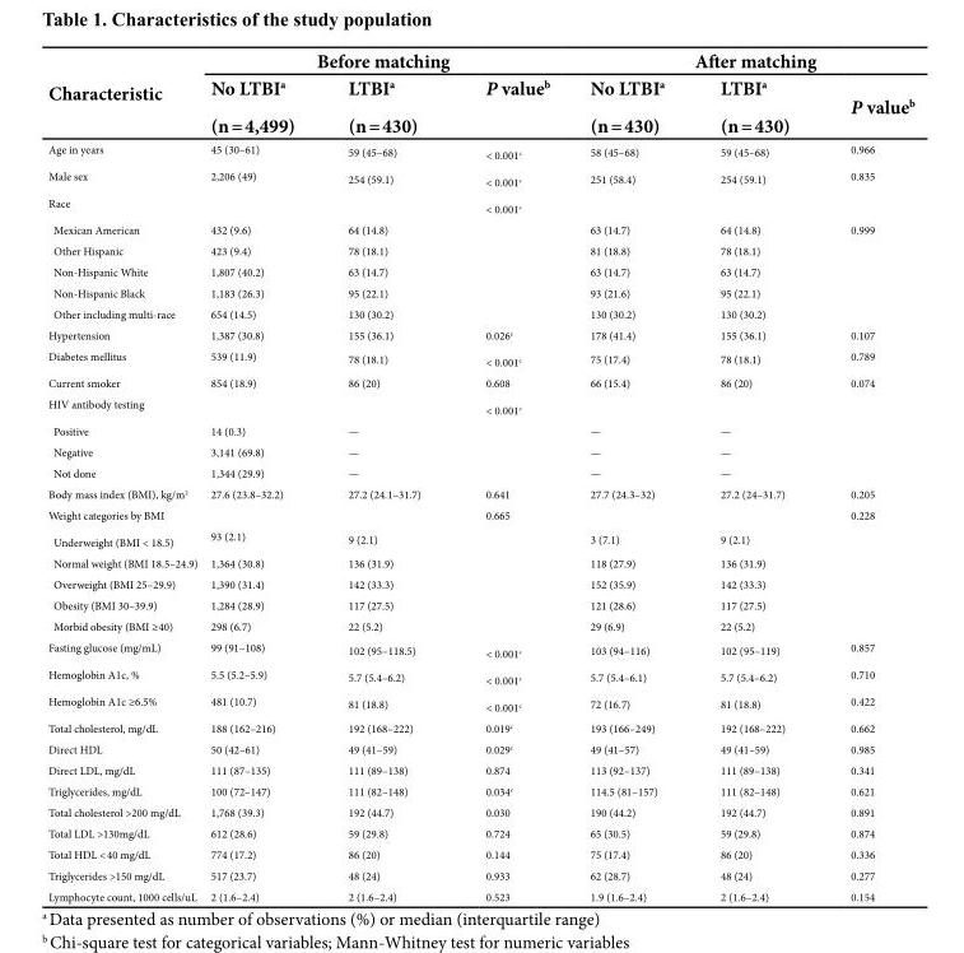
<table><thead><tr><td rowspan="2">Characteristic</td><td colspan="3">Before matching</td><td colspan="3">After matching</td></tr><tr><td>No LTBI<sup>a</sup> (n = 4,499)</td><td>LTBI<sup>a</sup> (n = 430)</td><td>P value<sup>b</sup></td><td>No LTBI<sup>a</sup> (n = 430)</td><td>LTBI<sup>a</sup> (n = 430)</td><td>P value<sup>b</sup></td></tr></thead><tbody><tr><td>Age in years</td><td>45 (30–61)</td><td>59 (45–68)</td><td>&lt; 0.001<sup>c</sup></td><td>58 (45–68)</td><td>59 (45–68)</td><td>0.966</td></tr><tr><td>Male sex</td><td>2,206 (49)</td><td>254 (59.1)</td><td>&lt; 0.001<sup>c</sup></td><td>251 (58.4)</td><td>254 (59.1)</td><td>0.835</td></tr><tr><td>Race</td><td></td><td></td><td>&lt; 0.001<sup>c</sup></td><td></td><td></td><td></td></tr><tr><td>Mexican American</td><td>432 (9.6)</td><td>64 (14.8)</td><td></td><td>63 (14.7)</td><td>64 (14.8)</td><td>0.999</td></tr><tr><td>Other Hispanic</td><td>423 (9.4)</td><td>78 (18.1)</td><td></td><td>81 (18.8)</td><td>78 (18.1)</td><td></td></tr><tr><td>Non-Hispanic White</td><td>1,807 (40.2)</td><td>63 (14.7)</td><td></td><td>63 (14.7)</td><td>63 (14.7)</td><td></td></tr><tr><td>Non-Hispanic Black</td><td>1,183 (26.3)</td><td>95 (22.1)</td><td></td><td>93 (21.6)</td><td>95 (22.1)</td><td></td></tr><tr><td>Other including multi-race</td><td>654 (14.5)</td><td>130 (30.2)</td><td></td><td>130 (30.2)</td><td>130 (30.2)</td><td></td></tr><tr><td>Hypertension</td><td>1,387 (30.8)</td><td>155 (36.1)</td><td>0.026<sup>c</sup></td><td>178 (41.4)</td><td>155 (36.1)</td><td>0.107</td></tr><tr><td>Diabetes mellitus</td><td>539 (11.9)</td><td>78 (18.1)</td><td>&lt; 0.001<sup>c</sup></td><td>75 (17.4)</td><td>78 (18.1)</td><td>0.789</td></tr><tr><td>Current smoker</td><td>854 (18.9)</td><td>86 (20)</td><td>0.608</td><td>66 (15.4)</td><td>86 (20)</td><td>0.074</td></tr><tr><td>HIV antibody testing</td><td></td><td></td><td>&lt; 0.001<sup>c</sup></td><td></td><td></td><td></td></tr><tr><td>Positive</td><td>14 (0.3)</td><td>—</td><td></td><td>—</td><td>—</td><td></td></tr><tr><td>Negative</td><td>3,141 (69.8)</td><td>—</td><td></td><td>—</td><td>—</td><td></td></tr><tr><td>Not done</td><td>1,344 (29.9)</td><td>—</td><td></td><td>—</td><td>—</td><td></td></tr><tr><td>Body mass index (BMI), kg/m<sup>2</sup></td><td>27.6 (23.8–32.2)</td><td>27.2 (24.1–31.7)</td><td>0.641</td><td>27.7 (24.3–32)</td><td>27.2 (24–31.7)</td><td>0.205</td></tr><tr><td>Weight categories by BMI</td><td></td><td></td><td>0.665</td><td></td><td></td><td>0.228</td></tr><tr><td>Underweight (BMI &lt; 18.5)</td><td>93 (2.1)</td><td>9 (2.1)</td><td></td><td>3 (7.1)</td><td>9 (2.1)</td><td></td></tr><tr><td>Normal weight (BMI 18.5–24.9)</td><td>1,364 (30.8)</td><td>136 (31.9)</td><td></td><td>118 (27.9)</td><td>136 (31.9)</td><td></td></tr><tr><td>Overweight (BMI 25–29.9)</td><td>1,390 (31.4)</td><td>142 (33.3)</td><td></td><td>152 (35.9)</td><td>142 (33.3)</td><td></td></tr><tr><td>Obesity (BMI 30–39.9)</td><td>1,284 (28.9)</td><td>117 (27.5)</td><td></td><td>121 (28.6)</td><td>117 (27.5)</td><td></td></tr><tr><td>Morbid obesity (BMI ≥40)</td><td>298 (6.7)</td><td>22 (5.2)</td><td></td><td>29 (6.9)</td><td>22 (5.2)</td><td></td></tr><tr><td>Fasting glucose (mg/mL)</td><td>99 (91–108)</td><td>102 (95–118.5)</td><td>&lt; 0.001<sup>c</sup></td><td>103 (94–116)</td><td>102 (95–119)</td><td>0.857</td></tr><tr><td>Hemoglobin A1c, %</td><td>5.5 (5.2–5.9)</td><td>5.7 (5.4–6.2)</td><td>&lt; 0.001<sup>c</sup></td><td>5.7 (5.4–6.1)</td><td>5.7 (5.4–6.2)</td><td>0.710</td></tr><tr><td>Hemoglobin A1c ≥6.5%</td><td>481 (10.7)</td><td>81 (18.8)</td><td>&lt; 0.001<sup>c</sup></td><td>72 (16.7)</td><td>81 (18.8)</td><td>0.422</td></tr><tr><td>Total cholesterol, mg/dL</td><td>188 (162–216)</td><td>192 (168–222)</td><td>0.019<sup>c</sup></td><td>193 (166–249)</td><td>192 (168–222)</td><td>0.662</td></tr><tr><td>Direct HDL</td><td>50 (42–61)</td><td>49 (41–59)</td><td>0.029<sup>c</sup></td><td>49 (41–57)</td><td>49 (41–59)</td><td>0.985</td></tr><tr><td>Direct LDL, mg/dL</td><td>111 (87–135)</td><td>111 (89–138)</td><td>0.874</td><td>113 (92–137)</td><td>111 (89–138)</td><td>0.341</td></tr><tr><td>Triglycerides, mg/dL</td><td>100 (72–147)</td><td>111 (82–148)</td><td>0.034<sup>c</sup></td><td>114.5 (81–157)</td><td>111 (82–148)</td><td>0.621</td></tr><tr><td>Total cholesterol &gt;200 mg/dL</td><td>1,768 (39.3)</td><td>192 (44.7)</td><td>0.030</td><td>190 (44.2)</td><td>192 (44.7)</td><td>0.891</td></tr><tr><td>Total LDL &gt;130mg/dL</td><td>612 (28.6)</td><td>59 (29.8)</td><td>0.724</td><td>65 (30.5)</td><td>59 (29.8)</td><td>0.874</td></tr><tr><td>Total HDL &lt; 40 mg/dL</td><td>774 (17.2)</td><td>86 (20)</td><td>0.144</td><td>75 (17.4)</td><td>86 (20)</td><td>0.336</td></tr><tr><td>Triglycerides &gt;150 mg/dL</td><td>517 (23.7)</td><td>48 (24)</td><td>0.933</td><td>62 (28.7)</td><td>48 (24)</td><td>0.277</td></tr><tr><td>Lymphocyte count, 1000 cells/uL</td><td>2 (1.6–2.4)</td><td>2 (1.6–2.4)</td><td>0.523</td><td>1.9 (1.6–2.4)</td><td>2 (1.6–2.4)</td><td>0.154</td></tr></tbody></table>